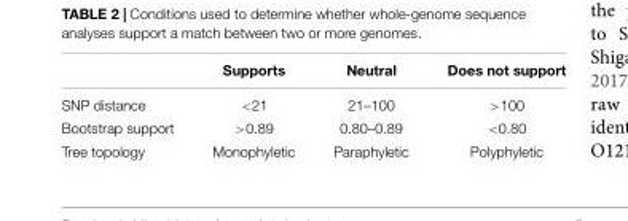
<table><thead><tr><td></td><td>Supports</td><td>Neutral</td><td>Does not support</td></tr></thead><tbody><tr><td>SNP distance</td><td>&lt;21</td><td>21–100</td><td>&gt;100</td></tr><tr><td>Bootstrap support</td><td>&gt;0.89</td><td>0.80–0.89</td><td>&lt;0.80</td></tr><tr><td>Tree topology</td><td>Monophyletic</td><td>Paraphyletic</td><td>Polyphyletic</td></tr></tbody></table>